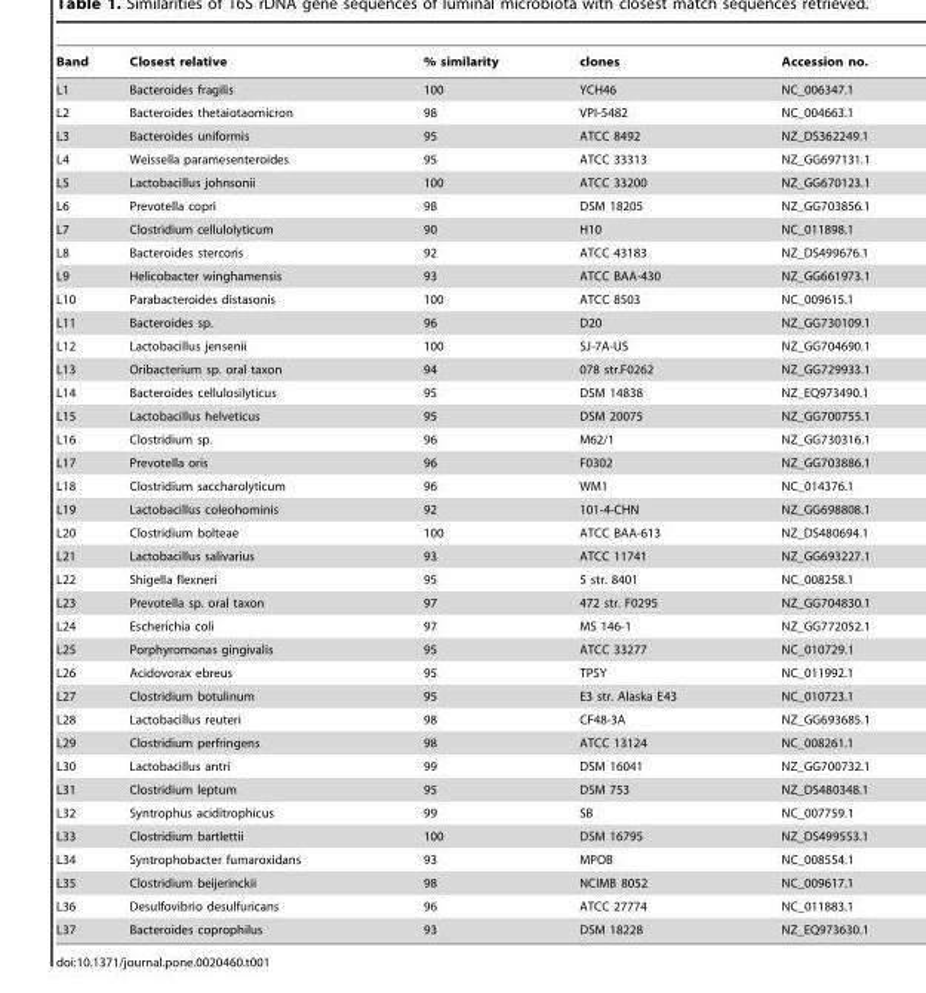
<table><thead><tr><td>Band</td><td>Closest relative</td><td>% similarity</td><td>clones</td><td>Accession no.</td></tr></thead><tbody><tr><td>L1</td><td>Bacteroides fragilis</td><td>100</td><td>YCH46</td><td>NC_006347.1</td></tr><tr><td>L2</td><td>Bacteroides thetaiotaomicron</td><td>98</td><td>VPI-5482</td><td>NC_004663.1</td></tr><tr><td>L3</td><td>Bacteroides uniformis</td><td>95</td><td>ATCC 8492</td><td>NZ_DS362249.1</td></tr><tr><td>L4</td><td>Weissella paramesenteroides</td><td>95</td><td>ATCC 33313</td><td>NZ_GG697131.1</td></tr><tr><td>L5</td><td>Lactobacillus johnsonii</td><td>100</td><td>ATCC 33200</td><td>NZ_GG670123.1</td></tr><tr><td>L6</td><td>Prevotella copri</td><td>98</td><td>DSM 18205</td><td>NZ_GG703856.1</td></tr><tr><td>L7</td><td>Clostridium cellulolyticum</td><td>90</td><td>H10</td><td>NC_011898.1</td></tr><tr><td>L8</td><td>Bacteroides stercoris</td><td>92</td><td>ATCC 43183</td><td>NZ_DS499676.1</td></tr><tr><td>L9</td><td>Helicobacter winghamensis</td><td>93</td><td>ATCC BAA-430</td><td>NZ_GG661973.1</td></tr><tr><td>L10</td><td>Parabacteroides distasonis</td><td>100</td><td>ATCC 8503</td><td>NC_009615.1</td></tr><tr><td>L11</td><td>Bacteroides sp.</td><td>96</td><td>D20</td><td>NZ_GG730109.1</td></tr><tr><td>L12</td><td>Lactobacillus jensenii</td><td>100</td><td>SJ-7A-US</td><td>NZ_GG704690.1</td></tr><tr><td>L13</td><td>Oribacterium sp. oral taxon</td><td>94</td><td>078 str.F0262</td><td>NZ_GG729933.1</td></tr><tr><td>L14</td><td>Bacteroides cellulosilyticus</td><td>95</td><td>DSM 14838</td><td>NZ_EQ973490.1</td></tr><tr><td>L15</td><td>Lactobacillus helveticus</td><td>95</td><td>DSM 20075</td><td>NZ_GG700755.1</td></tr><tr><td>L16</td><td>Clostridium sp.</td><td>96</td><td>M62/1</td><td>NZ_GG730316.1</td></tr><tr><td>L17</td><td>Prevotella oris</td><td>96</td><td>F0302</td><td>NZ_GG703886.1</td></tr><tr><td>L18</td><td>Clostridium saccharolyticum</td><td>96</td><td>WM1</td><td>NC_014376.1</td></tr><tr><td>L19</td><td>Lactobacillus coleohominis</td><td>92</td><td>101-4-CHN</td><td>NZ_GG698808.1</td></tr><tr><td>L20</td><td>Clostridium bolteae</td><td>100</td><td>ATCC BAA-613</td><td>NZ_DS480694.1</td></tr><tr><td>L21</td><td>Lactobacillus salivarius</td><td>93</td><td>ATCC 11741</td><td>NZ_GG693227.1</td></tr><tr><td>L22</td><td>Shigella flexneri</td><td>95</td><td>5 str. 8401</td><td>NC_008258.1</td></tr><tr><td>L23</td><td>Prevotella sp. oral taxon</td><td>97</td><td>472 str. F0295</td><td>NZ_GG704830.1</td></tr><tr><td>L24</td><td>Escherichia coli</td><td>97</td><td>MS 146-1</td><td>NZ_GG772052.1</td></tr><tr><td>L25</td><td>Porphyromonas gingivalis</td><td>95</td><td>ATCC 33277</td><td>NC_010729.1</td></tr><tr><td>L26</td><td>Acidovorax ebreus</td><td>95</td><td>TPSY</td><td>NC_011992.1</td></tr><tr><td>L27</td><td>Clostridium botulinum</td><td>95</td><td>E3 str. Alaska E43</td><td>NC_010723.1</td></tr><tr><td>L28</td><td>Lactobacillus reuteri</td><td>98</td><td>CF48-3A</td><td>NZ_GG693685.1</td></tr><tr><td>L29</td><td>Clostridium perfringens</td><td>98</td><td>ATCC 13124</td><td>NC_008261.1</td></tr><tr><td>L30</td><td>Lactobacillus antri</td><td>99</td><td>DSM 16041</td><td>NZ_GG700732.1</td></tr><tr><td>L31</td><td>Clostridium leptum</td><td>95</td><td>DSM 753</td><td>NZ_DS480348.1</td></tr><tr><td>L32</td><td>Syntrophus aciditrophicus</td><td>99</td><td>SB</td><td>NC_007759.1</td></tr><tr><td>L33</td><td>Clostridium bartlettii</td><td>100</td><td>DSM 16795</td><td>NZ_DS499553.1</td></tr><tr><td>L34</td><td>Syntrophobacter fumaroxidans</td><td>93</td><td>MPOB</td><td>NC_008554.1</td></tr><tr><td>L35</td><td>Clostridium beijerinckii</td><td>98</td><td>NCIMB 8052</td><td>NC_009617.1</td></tr><tr><td>L36</td><td>Desulfovibrio desulfuricans</td><td>96</td><td>ATCC 27774</td><td>NC_011883.1</td></tr><tr><td>L37</td><td>Bacteroides coprophilus</td><td>93</td><td>DSM 18228</td><td>NZ_EQ973630.1</td></tr></tbody></table>